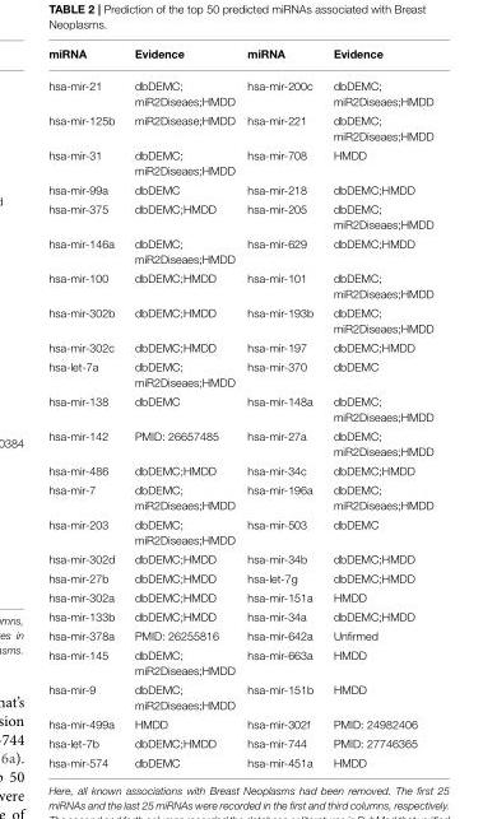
<table><thead><tr><td>miRNA</td><td>Evidence</td><td>miRNA</td><td>Evidence</td></tr></thead><tbody><tr><td>hsa-mir-21</td><td>dbDEMC; miR2Diseaes;HMDD</td><td>hsa-mir-200c</td><td>dbDEMC; miR2Diseaes;HMDD</td></tr><tr><td>hsa-mir-125b</td><td>miR2Disease;HMDD</td><td>hsa-mir-221</td><td>dbDEMC; miR2Diseaes;HMDD</td></tr><tr><td>hsa-mir-31</td><td>dbDEMC; miR2Diseaes;HMDD</td><td>hsa-mir-708</td><td>HMDD</td></tr><tr><td>hsa-mir-99a</td><td>dbDEMC</td><td>hsa-mir-218</td><td>dbDEMC;HMDD</td></tr><tr><td>hsa-mir-375</td><td>dbDEMC;HMDD</td><td>hsa-mir-205</td><td>dbDEMC; miR2Diseaes;HMDD</td></tr><tr><td>hsa-mir-146a</td><td>dbDEMC; miR2Diseaes;HMDD</td><td>hsa-mir-629</td><td>dbDEMC;HMDD</td></tr><tr><td>hsa-mir-100</td><td>dbDEMC;HMDD</td><td>hsa-mir-101</td><td>dbDEMC; miR2Diseaes;HMDD</td></tr><tr><td>hsa-mir-302b</td><td>dbDEMC;HMDD</td><td>hsa-mir-193b</td><td>dbDEMC; miR2Diseaes;HMDD</td></tr><tr><td>hsa-mir-302c</td><td>dbDEMC;HMDD</td><td>hsa-mir-197</td><td>dbDEMC;HMDD</td></tr><tr><td>hsa-let-7a</td><td>dbDEMC; miR2Diseaes;HMDD</td><td>hsa-mir-370</td><td>dbDEMC</td></tr><tr><td>hsa-mir-138</td><td>dbDEMC</td><td>hsa-mir-148a</td><td>dbDEMC; miR2Diseaes;HMDD</td></tr><tr><td>hsa-mir-142</td><td>PMID: 26657485</td><td>hsa-mir-27a</td><td>dbDEMC; miR2Diseaes;HMDD</td></tr><tr><td>hsa-mir-486</td><td>dbDEMC;HMDD</td><td>hsa-mir-34c</td><td>dbDEMC;HMDD</td></tr><tr><td>hsa-mir-7</td><td>dbDEMC; miR2Diseaes;HMDD</td><td>hsa-mir-196a</td><td>dbDEMC; miR2Diseaes;HMDD</td></tr><tr><td>hsa-mir-203</td><td>dbDEMC; miR2Diseaes;HMDD</td><td>hsa-mir-503</td><td>dbDEMC</td></tr><tr><td>hsa-mir-302d</td><td>dbDEMC;HMDD</td><td>hsa-mir-34b</td><td>dbDEMC;HMDD</td></tr><tr><td>hsa-mir-27b</td><td>dbDEMC;HMDD</td><td>hsa-let-7g</td><td>dbDEMC;HMDD</td></tr><tr><td>hsa-mir-302a</td><td>dbDEMC;HMDD</td><td>hsa-mir-151a</td><td>HMDD</td></tr><tr><td>hsa-mir-133b</td><td>dbDEMC;HMDD</td><td>hsa-mir-34a</td><td>dbDEMC;HMDD</td></tr><tr><td>hsa-mir-378a</td><td>PMID: 26255816</td><td>hsa-mir-642a</td><td>Unfirmed</td></tr><tr><td>hsa-mir-145</td><td>dbDEMC; miR2Diseaes;HMDD</td><td>hsa-mir-663a</td><td>HMDD</td></tr><tr><td>hsa-mir-9</td><td>dbDEMC; miR2Diseaes;HMDD</td><td>hsa-mir-151b</td><td>HMDD</td></tr><tr><td>hsa-mir-499a</td><td>HMDD</td><td>hsa-mir-302f</td><td>PMID: 24982406</td></tr><tr><td>hsa-let-7b</td><td>dbDEMC;HMDD</td><td>hsa-mir-744</td><td>PMID: 27746365</td></tr><tr><td>hsa-mir-574</td><td>dbDEMC</td><td>hsa-mir-451a</td><td>HMDD</td></tr></tbody></table>